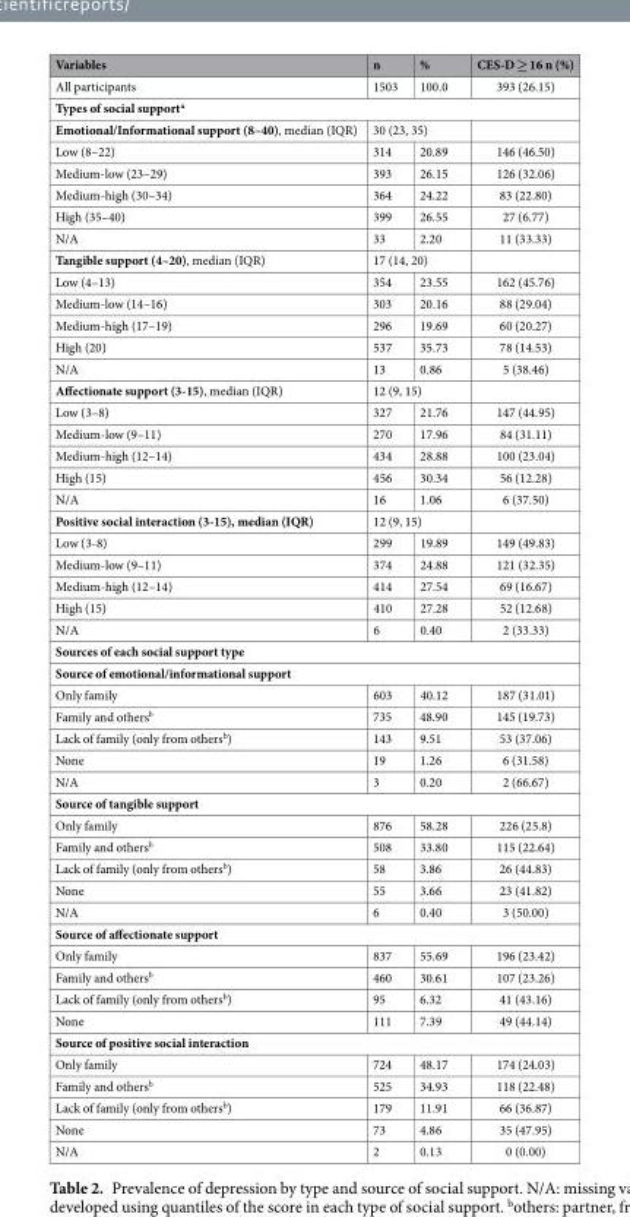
<table><thead><tr><td>Variables</td><td>n</td><td>%</td><td>CES-D ≥ 16 n (%)</td></tr></thead><tbody><tr><td>All participants</td><td>1503</td><td>100.0</td><td>393 (26.15)</td></tr><tr><td colspan="4">Types of social support<sup>a</sup></td></tr><tr><td>Emotional/Informational support (8–40), median (IQR)</td><td colspan="2">30 (23, 35)</td><td></td></tr><tr><td>Low (8–22)</td><td>314</td><td>20.89</td><td>146 (46.50)</td></tr><tr><td>Medium-low (23–29)</td><td>393</td><td>26.15</td><td>126 (32.06)</td></tr><tr><td>Medium-high (30–34)</td><td>364</td><td>24.22</td><td>83 (22.80)</td></tr><tr><td>High (35–40)</td><td>399</td><td>26.55</td><td>27 (6.77)</td></tr><tr><td>N/A</td><td>33</td><td>2.20</td><td>11 (33.33)</td></tr><tr><td>Tangible support (4–20), median (IQR)</td><td colspan="2">17 (14, 20)</td><td></td></tr><tr><td>Low (4–13)</td><td>354</td><td>23.55</td><td>162 (45.76)</td></tr><tr><td>Medium-low (14–16)</td><td>303</td><td>20.16</td><td>88 (29.04)</td></tr><tr><td>Medium-high (17–19)</td><td>296</td><td>19.69</td><td>60 (20.27)</td></tr><tr><td>High (20)</td><td>537</td><td>35.73</td><td>78 (14.53)</td></tr><tr><td>N/A</td><td>13</td><td>0.86</td><td>5 (38.46)</td></tr><tr><td>Affectionate support (3-15), median (IQR)</td><td colspan="2">12 (9, 15)</td><td></td></tr><tr><td>Low (3–8)</td><td>327</td><td>21.76</td><td>147 (44.95)</td></tr><tr><td>Medium-low (9–11)</td><td>270</td><td>17.96</td><td>84 (31.11)</td></tr><tr><td>Medium-high (12–14)</td><td>434</td><td>28.88</td><td>100 (23.04)</td></tr><tr><td>High (15)</td><td>456</td><td>30.34</td><td>56 (12.28)</td></tr><tr><td>N/A</td><td>16</td><td>1.06</td><td>6 (37.50)</td></tr><tr><td>Positive social interaction (3-15), median (IQR)</td><td colspan="2">12 (9, 15)</td><td></td></tr><tr><td>Low (3-8)</td><td>299</td><td>19.89</td><td>149 (49.83)</td></tr><tr><td>Medium-low (9–11)</td><td>374</td><td>24.88</td><td>121 (32.35)</td></tr><tr><td>Medium-high (12–14)</td><td>414</td><td>27.54</td><td>69 (16.67)</td></tr><tr><td>High (15)</td><td>410</td><td>27.28</td><td>52 (12.68)</td></tr><tr><td>N/A</td><td>6</td><td>0.40</td><td>2 (33.33)</td></tr><tr><td colspan="4">Sources of each social support type</td></tr><tr><td colspan="4">Source of emotional/informational support</td></tr><tr><td>Only family</td><td>603</td><td>40.12</td><td>187 (31.01)</td></tr><tr><td>Family and others<sup>b</sup></td><td>735</td><td>48.90</td><td>145 (19.73)</td></tr><tr><td>Lack of family (only from others<sup>b</sup>)</td><td>143</td><td>9.51</td><td>53 (37.06)</td></tr><tr><td>None</td><td>19</td><td>1.26</td><td>6 (31.58)</td></tr><tr><td>N/A</td><td>3</td><td>0.20</td><td>2 (66.67)</td></tr><tr><td colspan="4">Source of tangible support</td></tr><tr><td>Only family</td><td>876</td><td>58.28</td><td>226 (25.8)</td></tr><tr><td>Family and others<sup>b</sup></td><td>508</td><td>33.80</td><td>115 (22.64)</td></tr><tr><td>Lack of family (only from others<sup>b</sup>)</td><td>58</td><td>3.86</td><td>26 (44.83)</td></tr><tr><td>None</td><td>55</td><td>3.66</td><td>23 (41.82)</td></tr><tr><td>N/A</td><td>6</td><td>0.40</td><td>3 (50.00)</td></tr><tr><td colspan="4">Source of affectionate support</td></tr><tr><td>Only family</td><td>837</td><td>55.69</td><td>196 (23.42)</td></tr><tr><td>Family and others<sup>b</sup></td><td>460</td><td>30.61</td><td>107 (23.26)</td></tr><tr><td>Lack of family (only from others<sup>b</sup>)</td><td>95</td><td>6.32</td><td>41 (43.16)</td></tr><tr><td>None</td><td>111</td><td>7.39</td><td>49 (44.14)</td></tr><tr><td colspan="4">Source of positive social interaction</td></tr><tr><td>Only family</td><td>724</td><td>48.17</td><td>174 (24.03)</td></tr><tr><td>Family and others<sup>b</sup></td><td>525</td><td>34.93</td><td>118 (22.48)</td></tr><tr><td>Lack of family (only from others<sup>b</sup>)</td><td>179</td><td>11.91</td><td>66 (36.87)</td></tr><tr><td>None</td><td>73</td><td>4.86</td><td>35 (47.95)</td></tr><tr><td>N/A</td><td>2</td><td>0.13</td><td>0 (0.00)</td></tr></tbody></table>